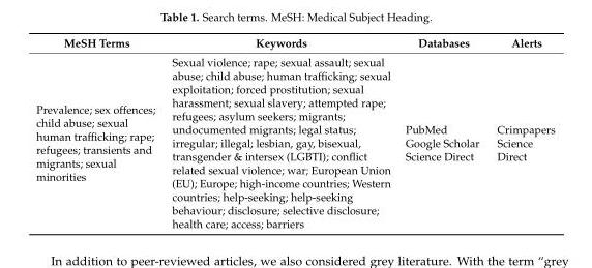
<table><thead><tr><td>MeSH Terms</td><td>Keywords</td><td>Databases</td><td>Alerts</td></tr></thead><tbody><tr><td>Prevalence; sex offences; child abuse; sexual human trafficking; rape; refugees; transients and migrants; sexual minorities</td><td>Sexual violence; rape; sexual assault; sexual abuse; child abuse; human trafficking; sexual exploitation; forced prostitution; sexual harassment; sexual slavery; attempted rape; refugees; asylum seekers; migrants; undocumented migrants; legal status; irregular; illegal; lesbian, gay, bisexual, transgender &amp; intersex (LGBTI); conflict related sexual violence; war; European Union (EU); Europe; high-income countries; Western countries; help-seeking; help-seeking behaviour; disclosure; selective disclosure; health care; access; barriers</td><td>PubMed Google Scholar Science Direct</td><td>Crimpapers Science Direct</td></tr></tbody></table>